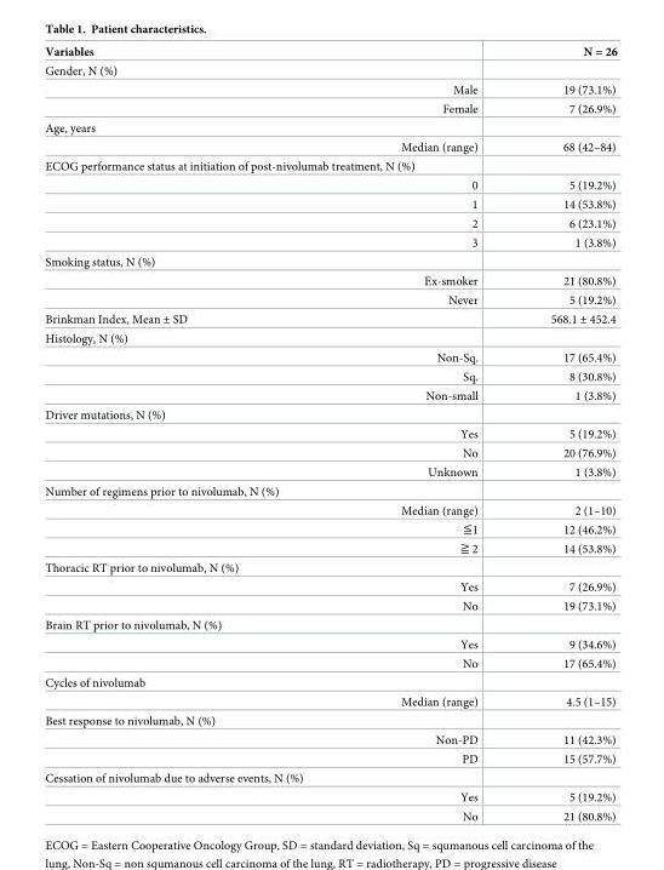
<table><thead><tr><td>Variables</td><td>N = 26</td></tr></thead><tbody><tr><td colspan="2">Gender, N (%)</td></tr><tr><td>Male</td><td>19 (73.1%)</td></tr><tr><td>Female</td><td>7 (26.9%)</td></tr><tr><td colspan="2">Age, years</td></tr><tr><td>Median (range)</td><td>68 (42–84)</td></tr><tr><td colspan="2">ECOG performance status at initiation of post-nivolumab treatment, N (%)</td></tr><tr><td>0</td><td>5 (19.2%)</td></tr><tr><td>1</td><td>14 (53.8%)</td></tr><tr><td>2</td><td>6 (23.1%)</td></tr><tr><td>3</td><td>1 (3.8%)</td></tr><tr><td colspan="2">Smoking status, N (%)</td></tr><tr><td>Ex-smoker</td><td>21 (80.8%)</td></tr><tr><td>Never</td><td>5 (19.2%)</td></tr><tr><td>Brinkman Index, Mean ± SD</td><td>568.1 ± 452.4</td></tr><tr><td colspan="2">Histology, N (%)</td></tr><tr><td>Non-Sq.</td><td>17 (65.4%)</td></tr><tr><td>Sq.</td><td>8 (30.8%)</td></tr><tr><td>Non-small</td><td>1 (3.8%)</td></tr><tr><td colspan="2">Driver mutations, N (%)</td></tr><tr><td>Yes</td><td>5 (19.2%)</td></tr><tr><td>No</td><td>20 (76.9%)</td></tr><tr><td>Unknown</td><td>1 (3.8%)</td></tr><tr><td colspan="2">Number of regimens prior to nivolumab, N (%)</td></tr><tr><td>Median (range)</td><td>2 (1–10)</td></tr><tr><td>≦1</td><td>12 (46.2%)</td></tr><tr><td>≧ 2</td><td>14 (53.8%)</td></tr><tr><td colspan="2">Thoracic RT prior to nivolumab, N (%)</td></tr><tr><td>Yes</td><td>7 (26.9%)</td></tr><tr><td>No</td><td>19 (73.1%)</td></tr><tr><td colspan="2">Brain RT prior to nivolumab, N (%)</td></tr><tr><td>Yes</td><td>9 (34.6%)</td></tr><tr><td>No</td><td>17 (65.4%)</td></tr><tr><td colspan="2">Cycles of nivolumab</td></tr><tr><td>Median (range)</td><td>4.5 (1–15)</td></tr><tr><td colspan="2">Best response to nivolumab, N (%)</td></tr><tr><td>Non-PD</td><td>11 (42.3%)</td></tr><tr><td>PD</td><td>15 (57.7%)</td></tr><tr><td colspan="2">Cessation of nivolumab due to adverse events, N (%)</td></tr><tr><td>Yes</td><td>5 (19.2%)</td></tr><tr><td>No</td><td>21 (80.8%)</td></tr></tbody></table>